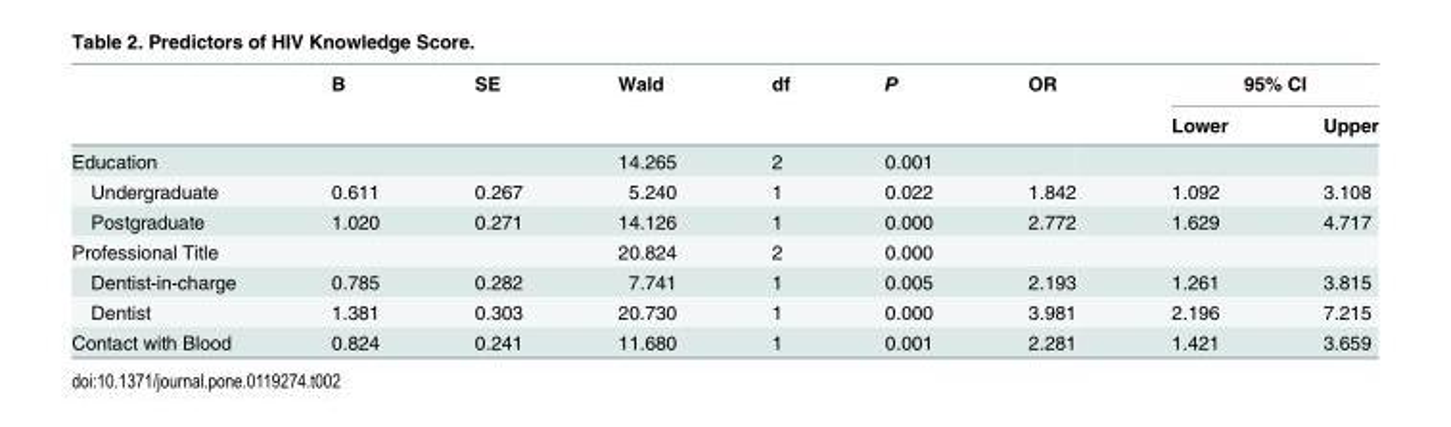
<table><thead><tr><td rowspan="2"></td><td rowspan="2">B</td><td rowspan="2">SE</td><td rowspan="2">Wald</td><td rowspan="2">df</td><td rowspan="2">P</td><td rowspan="2">OR</td><td colspan="2">95% CI</td></tr><tr><td>Lower</td><td>Upper</td></tr></thead><tbody><tr><td>Education</td><td></td><td></td><td>14.265</td><td>2</td><td>0.001</td><td></td><td></td><td></td></tr><tr><td>Undergraduate</td><td>0.611</td><td>0.267</td><td>5.240</td><td>1</td><td>0.022</td><td>1.842</td><td>1.092</td><td>3.108</td></tr><tr><td>Postgraduate</td><td>1.020</td><td>0.271</td><td>14.126</td><td>1</td><td>0.000</td><td>2.772</td><td>1.629</td><td>4.717</td></tr><tr><td>Professional Title</td><td></td><td></td><td>20.824</td><td>2</td><td>0.000</td><td></td><td></td><td></td></tr><tr><td>Dentist-in-charge</td><td>0.785</td><td>0.282</td><td>7.741</td><td>1</td><td>0.005</td><td>2.193</td><td>1.261</td><td>3.815</td></tr><tr><td>Dentist</td><td>1.381</td><td>0.303</td><td>20.730</td><td>1</td><td>0.000</td><td>3.981</td><td>2.196</td><td>7.215</td></tr><tr><td>Contact with Blood</td><td>0.824</td><td>0.241</td><td>11.680</td><td>1</td><td>0.001</td><td>2.281</td><td>1.421</td><td>3.659</td></tr></tbody></table>